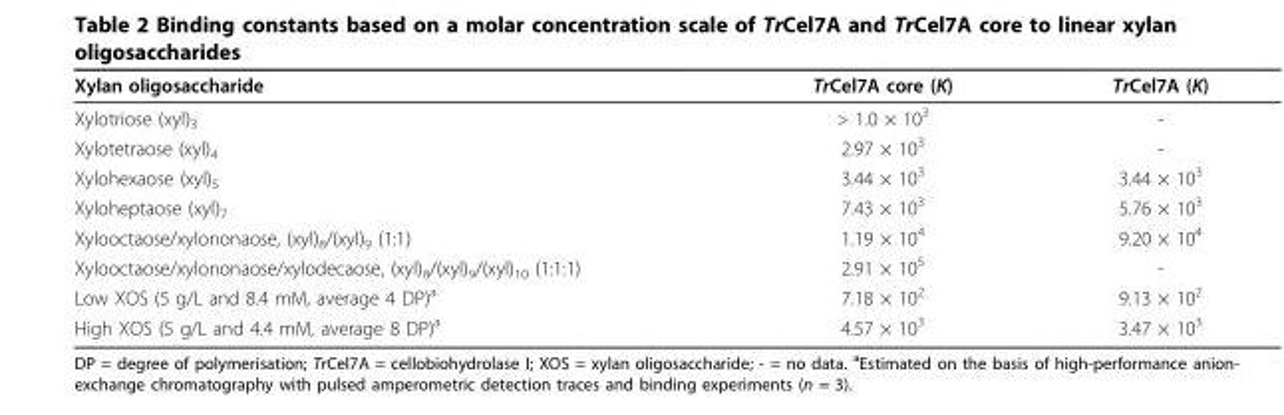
<table><thead><tr><td>Xylan oligosaccharide</td><td>TrCel7A core (K)</td><td>TrCel7A (K)</td></tr></thead><tbody><tr><td>Xylotriose (xyl)<sub>3</sub></td><td>&gt; 1.0 × 10<sup>3</sup></td><td>-</td></tr><tr><td>Xylotetraose (xyl)<sub>4</sub></td><td>2.97 × 10<sup>3</sup></td><td>-</td></tr><tr><td>Xylohexaose (xyl)<sub>5</sub></td><td>3.44 × 10<sup>3</sup></td><td>3.44 × 10<sup>3</sup></td></tr><tr><td>Xyloheptaose (xyl)<sub>7</sub></td><td>7.43 × 10<sup>3</sup></td><td>5.76 × 10<sup>3</sup></td></tr><tr><td>Xylooctaose/xylononaose, (xyl)<sub>8</sub>/(xyl)<sub>9</sub> (1:1)</td><td>1.19 × 10<sup>4</sup></td><td>9.20 × 10<sup>4</sup></td></tr><tr><td>Xylooctaose/xylononaose/xylodecaose, (xyl)<sub>8</sub>/(xyl)<sub>9</sub>/(xyl)<sub>10</sub> (1:1:1)</td><td>2.91 × 10<sup>5</sup></td><td>-</td></tr><tr><td>Low XOS (5 g/L and 8.4 mM, average 4 DP)<sup>a</sup></td><td>7.18 × 10<sup>2</sup></td><td>9.13 × 10<sup>2</sup></td></tr><tr><td>High XOS (5 g/L and 4.4 mM, average 8 DP)<sup>a</sup></td><td>4.57 × 10<sup>3</sup></td><td>3.47 × 10<sup>3</sup></td></tr></tbody></table>